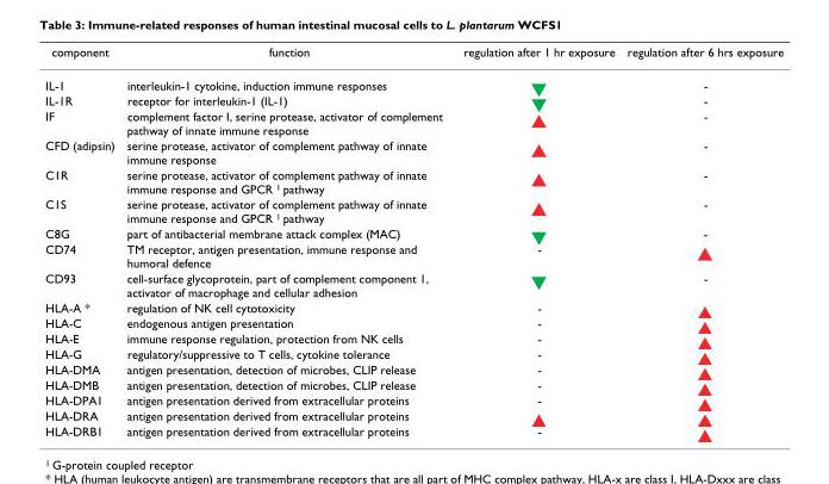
<table><thead><tr><td>component</td><td>function</td><td>regulation after 1 hr exposure</td><td>regulation after 6 hrs exposure</td></tr></thead><tbody><tr><td>IL-1</td><td>interleukin-1 cytokine, induction immune responses</td><td></td><td>-</td></tr><tr><td>IL-1R</td><td>receptor for interleukin-1 (IL-1)</td><td></td><td>-</td></tr><tr><td>IF</td><td>complement factor I, serine protease, activator of complement pathway of innate immune response</td><td></td><td>-</td></tr><tr><td>CFD (adipsin)</td><td>serine protease, activator of complement pathway of innate immune response</td><td></td><td>-</td></tr><tr><td>C1R</td><td>serine protease, activator of complement pathway of innate immune response and GPCR <sup>1</sup> pathway</td><td></td><td>-</td></tr><tr><td>C1S</td><td>serine protease, activator of complement pathway of innate immune response and GPCR <sup>1</sup> pathway</td><td></td><td>-</td></tr><tr><td>C8G</td><td>part of antibacterial membrane attack complex (MAC)</td><td></td><td>-</td></tr><tr><td>CD74</td><td>TM receptor, antigen presentation, immune response and humoral defence</td><td>-</td><td></td></tr><tr><td>CD93</td><td>cell-surface glycoprotein, part of complement component 1, activator of macrophage and cellular adhesion</td><td></td><td>-</td></tr><tr><td>HLA-A *</td><td>regulation of NK cell cytotoxicity</td><td>-</td><td></td></tr><tr><td>HLA-C</td><td>endogenous antigen presentation</td><td>-</td><td></td></tr><tr><td>HLA-E</td><td>immune response regulation, protection from NK cells</td><td>-</td><td></td></tr><tr><td>HLA-G</td><td>regulatory/suppressive to T cells, cytokine tolerance</td><td>-</td><td></td></tr><tr><td>HLA-DMA</td><td>antigen presentation, detection of microbes, CLIP release</td><td>-</td><td></td></tr><tr><td>HLA-DMB</td><td>antigen presentation, detection of microbes, CLIP release</td><td>-</td><td></td></tr><tr><td>HLA-DPA1</td><td>antigen presentation derived from extracellular proteins</td><td>-</td><td></td></tr><tr><td>HLA-DRA</td><td>antigen presentation derived from extracellular proteins</td><td></td><td></td></tr><tr><td>HLA-DRB1</td><td>antigen presentation derived from extracellular proteins</td><td>-</td><td></td></tr></tbody></table>